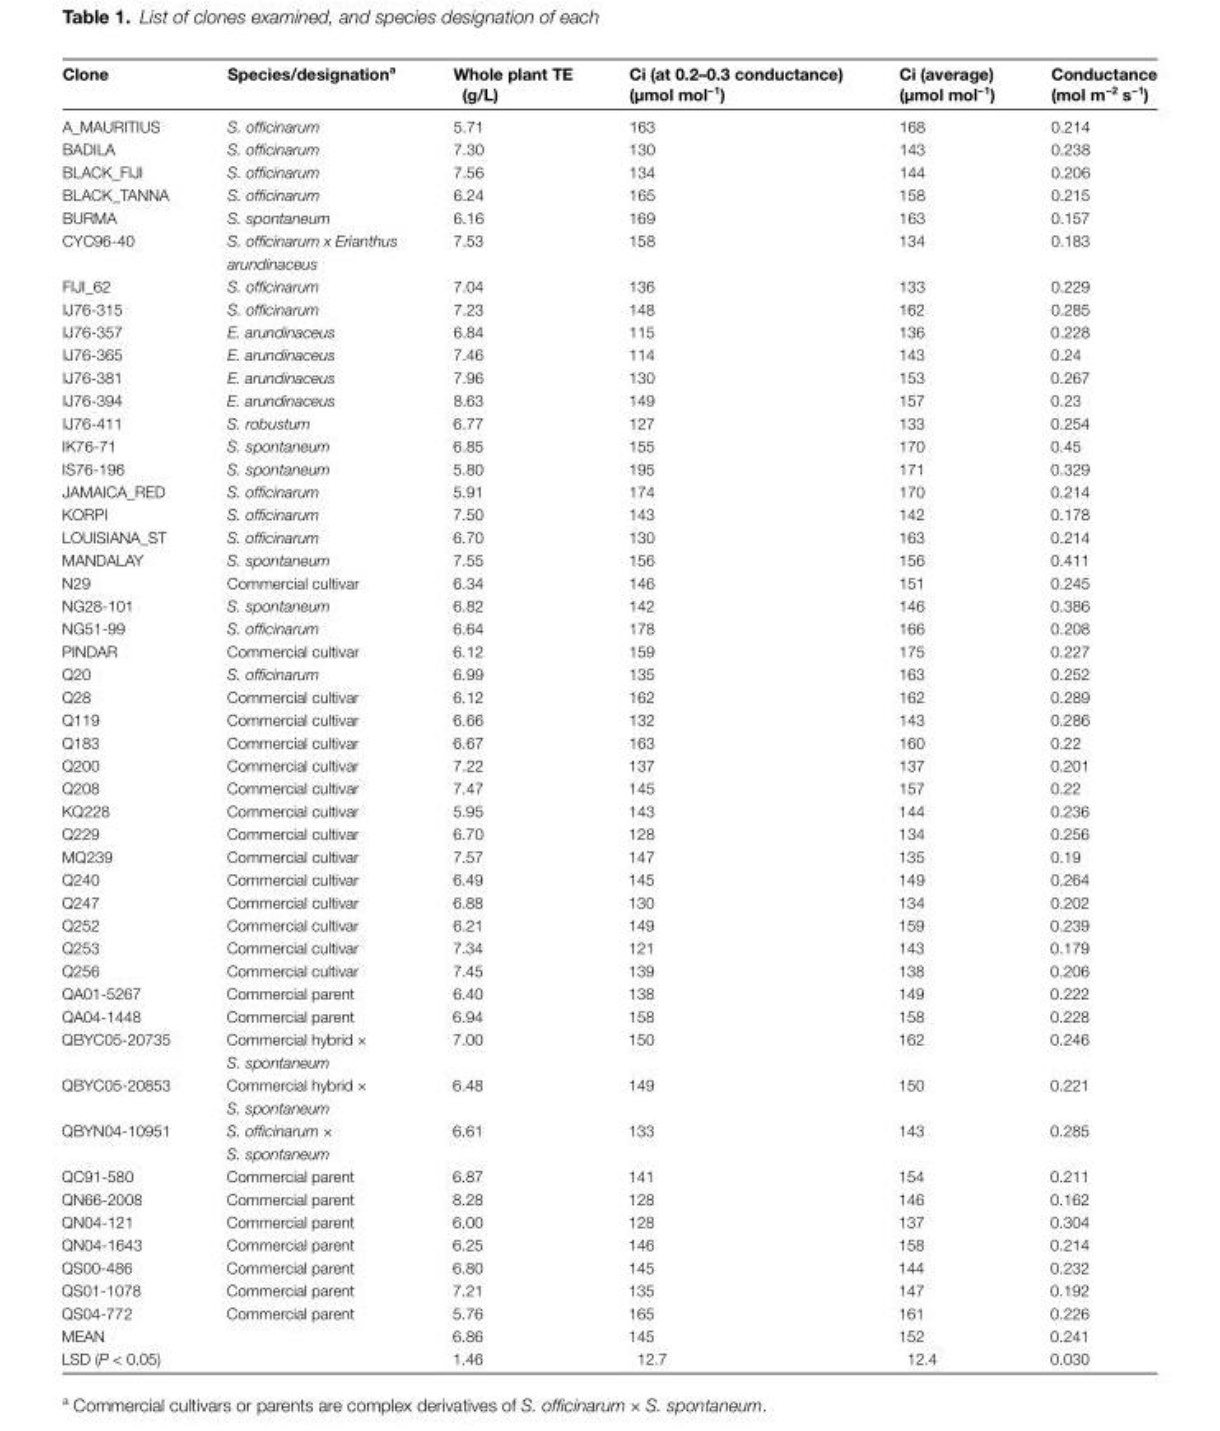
<table><thead><tr><td>Clone</td><td>Species/designation<sup>a</sup></td><td>Whole plant TE (g/L)</td><td>Ci (at 0.2–0.3 conductance) (µmol mol<sup>−1</sup>)</td><td>Ci (average) (µmol mol<sup>−1</sup>)</td><td>Conductance (mol m<sup>−2</sup> s<sup>−1</sup>)</td></tr></thead><tbody><tr><td>A_MAURITIUS</td><td>S. officinarum</td><td>5.71</td><td>163</td><td>168</td><td>0.214</td></tr><tr><td>BADILA</td><td>S. officinarum</td><td>7.30</td><td>130</td><td>143</td><td>0.238</td></tr><tr><td>BLACK_FIJI</td><td>S. officinarum</td><td>7.56</td><td>134</td><td>144</td><td>0.206</td></tr><tr><td>BLACK_TANNA</td><td>S. officinarum</td><td>6.24</td><td>165</td><td>158</td><td>0.215</td></tr><tr><td>BURMA</td><td>S. spontaneum</td><td>6.16</td><td>169</td><td>163</td><td>0.157</td></tr><tr><td>CYC96-40</td><td>S. officinarum x Erianthus arundinaceus</td><td>7.53</td><td>158</td><td>134</td><td>0.183</td></tr><tr><td>FIJI_62</td><td>S. officinarum</td><td>7.04</td><td>136</td><td>133</td><td>0.229</td></tr><tr><td>IJ76-315</td><td>S. officinarum</td><td>7.23</td><td>148</td><td>162</td><td>0.285</td></tr><tr><td>IJ76-357</td><td>E. arundinaceus</td><td>6.84</td><td>115</td><td>136</td><td>0.228</td></tr><tr><td>IJ76-365</td><td>E. arundinaceus</td><td>7.46</td><td>114</td><td>143</td><td>0.24</td></tr><tr><td>IJ76-381</td><td>E. arundinaceus</td><td>7.96</td><td>130</td><td>153</td><td>0.267</td></tr><tr><td>IJ76-394</td><td>E. arundinaceus</td><td>8.63</td><td>149</td><td>157</td><td>0.23</td></tr><tr><td>IJ76-411</td><td>S. robustum</td><td>6.77</td><td>127</td><td>133</td><td>0.254</td></tr><tr><td>IK76-71</td><td>S. spontaneum</td><td>6.85</td><td>155</td><td>170</td><td>0.45</td></tr><tr><td>IS76-196</td><td>S. spontaneum</td><td>5.80</td><td>195</td><td>171</td><td>0.329</td></tr><tr><td>JAMAICA_RED</td><td>S. officinarum</td><td>5.91</td><td>174</td><td>170</td><td>0.214</td></tr><tr><td>KORPI</td><td>S. officinarum</td><td>7.50</td><td>143</td><td>142</td><td>0.178</td></tr><tr><td>LOUISIANA_ST</td><td>S. officinarum</td><td>6.70</td><td>130</td><td>163</td><td>0.214</td></tr><tr><td>MANDALAY</td><td>S. spontaneum</td><td>7.55</td><td>156</td><td>156</td><td>0.411</td></tr><tr><td>N29</td><td>Commercial cultivar</td><td>6.34</td><td>146</td><td>151</td><td>0.245</td></tr><tr><td>NG28-101</td><td>S. spontaneum</td><td>6.82</td><td>142</td><td>146</td><td>0.386</td></tr><tr><td>NG51-99</td><td>S. officinarum</td><td>6.64</td><td>178</td><td>166</td><td>0.208</td></tr><tr><td>PINDAR</td><td>Commercial cultivar</td><td>6.12</td><td>159</td><td>175</td><td>0.227</td></tr><tr><td>Q20</td><td>S. officinarum</td><td>6.99</td><td>135</td><td>163</td><td>0.252</td></tr><tr><td>Q28</td><td>Commercial cultivar</td><td>6.12</td><td>162</td><td>162</td><td>0.289</td></tr><tr><td>Q119</td><td>Commercial cultivar</td><td>6.66</td><td>132</td><td>143</td><td>0.286</td></tr><tr><td>Q183</td><td>Commercial cultivar</td><td>6.67</td><td>163</td><td>160</td><td>0.22</td></tr><tr><td>Q200</td><td>Commercial cultivar</td><td>7.22</td><td>137</td><td>137</td><td>0.201</td></tr><tr><td>Q208</td><td>Commercial cultivar</td><td>7.47</td><td>145</td><td>157</td><td>0.22</td></tr><tr><td>KQ228</td><td>Commercial cultivar</td><td>5.95</td><td>143</td><td>144</td><td>0.236</td></tr><tr><td>Q229</td><td>Commercial cultivar</td><td>6.70</td><td>128</td><td>134</td><td>0.256</td></tr><tr><td>MQ239</td><td>Commercial cultivar</td><td>7.57</td><td>147</td><td>135</td><td>0.19</td></tr><tr><td>Q240</td><td>Commercial cultivar</td><td>6.49</td><td>145</td><td>149</td><td>0.264</td></tr><tr><td>Q247</td><td>Commercial cultivar</td><td>6.88</td><td>130</td><td>134</td><td>0.202</td></tr><tr><td>Q252</td><td>Commercial cultivar</td><td>6.21</td><td>149</td><td>159</td><td>0.239</td></tr><tr><td>Q253</td><td>Commercial cultivar</td><td>7.34</td><td>121</td><td>143</td><td>0.179</td></tr><tr><td>Q256</td><td>Commercial cultivar</td><td>7.45</td><td>139</td><td>138</td><td>0.206</td></tr><tr><td>QA01-5267</td><td>Commercial parent</td><td>6.40</td><td>138</td><td>149</td><td>0.222</td></tr><tr><td>QA04-1448</td><td>Commercial parent</td><td>6.94</td><td>158</td><td>158</td><td>0.228</td></tr><tr><td>QBYC05-20735</td><td>Commercial hybrid × S. spontaneum</td><td>7.00</td><td>150</td><td>162</td><td>0.246</td></tr><tr><td>QBYC05-20853</td><td>Commercial hybrid × S. spontaneum</td><td>6.48</td><td>149</td><td>150</td><td>0.221</td></tr><tr><td>QBYN04-10951</td><td>S. officinarum × S. spontaneum</td><td>6.61</td><td>133</td><td>143</td><td>0.285</td></tr><tr><td>QC91-580</td><td>Commercial parent</td><td>6.87</td><td>141</td><td>154</td><td>0.211</td></tr><tr><td>QN66-2008</td><td>Commercial parent</td><td>8.28</td><td>128</td><td>146</td><td>0.162</td></tr><tr><td>QN04-121</td><td>Commercial parent</td><td>6.00</td><td>128</td><td>137</td><td>0.304</td></tr><tr><td>QN04-1643</td><td>Commercial parent</td><td>6.25</td><td>146</td><td>158</td><td>0.214</td></tr><tr><td>QS00-486</td><td>Commercial parent</td><td>6.80</td><td>145</td><td>144</td><td>0.232</td></tr><tr><td>QS01-1078</td><td>Commercial parent</td><td>7.21</td><td>135</td><td>147</td><td>0.192</td></tr><tr><td>QS04-772</td><td>Commercial parent</td><td>5.76</td><td>165</td><td>161</td><td>0.226</td></tr><tr><td>MEAN</td><td></td><td>6.86</td><td>145</td><td>152</td><td>0.241</td></tr><tr><td>LSD (P &lt; 0.05)</td><td></td><td>1.46</td><td>12.7</td><td>12.4</td><td>0.030</td></tr></tbody></table>